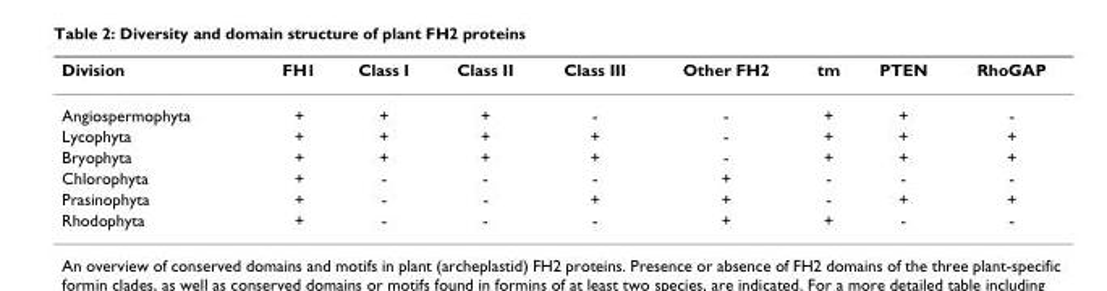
<table><thead><tr><td>Division</td><td>FH1</td><td>Class I</td><td>Class II</td><td>Class III</td><td>Other FH2</td><td>tm</td><td>PTEN</td><td>RhoGAP</td></tr></thead><tbody><tr><td>Angiospermophyta</td><td>+</td><td>+</td><td>+</td><td>-</td><td>-</td><td>+</td><td>+</td><td>-</td></tr><tr><td>Lycophyta</td><td>+</td><td>+</td><td>+</td><td>+</td><td>-</td><td>+</td><td>+</td><td>+</td></tr><tr><td>Bryophyta</td><td>+</td><td>+</td><td>+</td><td>+</td><td>-</td><td>+</td><td>+</td><td>+</td></tr><tr><td>Chlorophyta</td><td>+</td><td>-</td><td>-</td><td>-</td><td>+</td><td>-</td><td>-</td><td>-</td></tr><tr><td>Prasinophyta</td><td>+</td><td>-</td><td>-</td><td>+</td><td>+</td><td>-</td><td>+</td><td>+</td></tr><tr><td>Rhodophyta</td><td>+</td><td>-</td><td>-</td><td>-</td><td>+</td><td>+</td><td>-</td><td>-</td></tr></tbody></table>